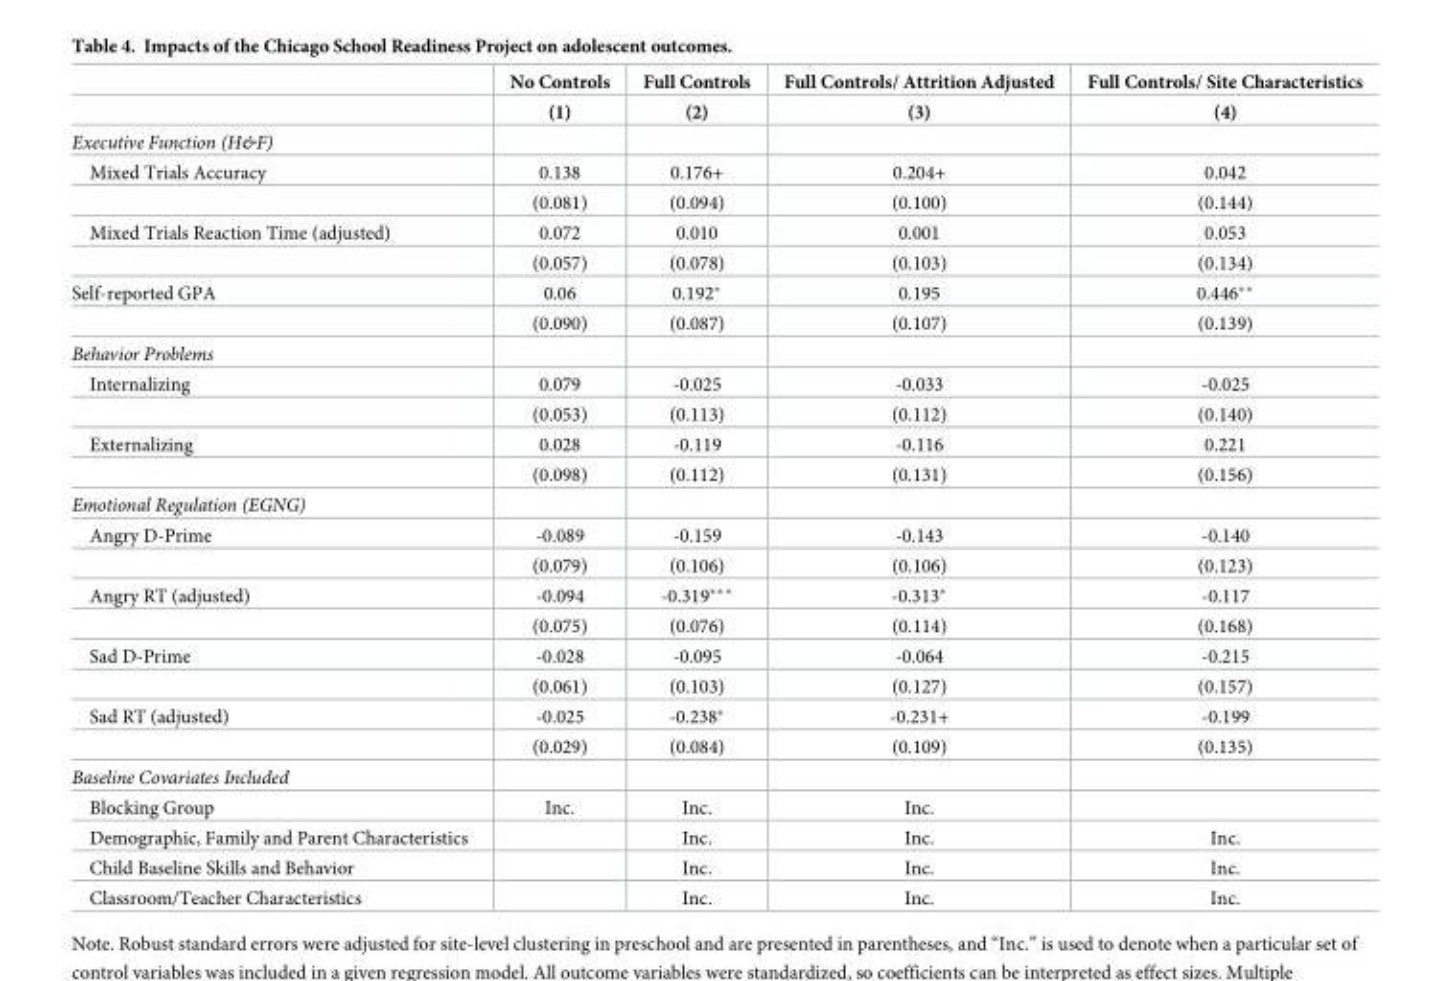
<table><thead><tr><td rowspan="2"></td><td rowspan="2">No Controls (1)</td><td rowspan="2">Full Controls (2)</td><td rowspan="2">Full Controls/ Attrition Adjusted (3)</td><td rowspan="2">Full Controls/ Site Characteristics (4)</td></tr><tr></tr></thead><tbody><tr><td colspan="5">Executive Function (H&amp;F)</td></tr><tr><td rowspan="2">Mixed Trials Accuracy</td><td>0.138</td><td>0.176+</td><td>0.204+</td><td>0.042</td></tr><tr><td>(0.081)</td><td>(0.094)</td><td>(0.100)</td><td>(0.144)</td></tr><tr><td rowspan="2">Mixed Trials Reaction Time (adjusted)</td><td>0.072</td><td>0.010</td><td>0.001</td><td>0.053</td></tr><tr><td>(0.057)</td><td>(0.078)</td><td>(0.103)</td><td>(0.134)</td></tr><tr><td rowspan="2">Self-reported GPA</td><td>0.06</td><td>0.192*</td><td>0.195</td><td>0.446**</td></tr><tr><td>(0.090)</td><td>(0.087)</td><td>(0.107)</td><td>(0.139)</td></tr><tr><td colspan="5">Behavior Problems</td></tr><tr><td rowspan="2">Internalizing</td><td>0.079</td><td>-0.025</td><td>-0.033</td><td>-0.025</td></tr><tr><td>(0.053)</td><td>(0.113)</td><td>(0.112)</td><td>(0.140)</td></tr><tr><td rowspan="2">Externalizing</td><td>0.028</td><td>-0.119</td><td>-0.116</td><td>0.221</td></tr><tr><td>(0.098)</td><td>(0.112)</td><td>(0.131)</td><td>(0.156)</td></tr><tr><td colspan="5">Emotional Regulation (EGNG)</td></tr><tr><td rowspan="2">Angry D-Prime</td><td>-0.089</td><td>-0.159</td><td>-0.143</td><td>-0.140</td></tr><tr><td>(0.079)</td><td>(0.106)</td><td>(0.106)</td><td>(0.123)</td></tr><tr><td rowspan="2">Angry RT (adjusted)</td><td>-0.094</td><td>-0.319***</td><td>-0.313*</td><td>-0.117</td></tr><tr><td>(0.075)</td><td>(0.076)</td><td>(0.114)</td><td>(0.168)</td></tr><tr><td rowspan="2">Sad D-Prime</td><td>-0.028</td><td>-0.095</td><td>-0.064</td><td>-0.215</td></tr><tr><td>(0.061)</td><td>(0.103)</td><td>(0.127)</td><td>(0.157)</td></tr><tr><td rowspan="2">Sad RT (adjusted)</td><td>-0.025</td><td>-0.238*</td><td>-0.231+</td><td>-0.199</td></tr><tr><td>(0.029)</td><td>(0.084)</td><td>(0.109)</td><td>(0.135)</td></tr><tr><td colspan="5">Baseline Covariates Included</td></tr><tr><td>Blocking Group</td><td>Inc.</td><td>Inc.</td><td>Inc.</td><td></td></tr><tr><td>Demographic, Family and Parent Characteristics</td><td></td><td>Inc.</td><td>Inc.</td><td>Inc.</td></tr><tr><td>Child Baseline Skills and Behavior</td><td></td><td>Inc.</td><td>Inc.</td><td>Inc.</td></tr><tr><td>Classroom/Teacher Characteristics</td><td></td><td>Inc.</td><td>Inc.</td><td>Inc.</td></tr></tbody></table>